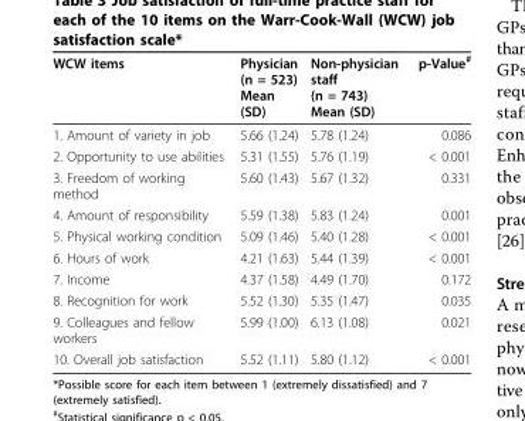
<table><thead><tr><td>WCW items</td><td>Physician (n = 523) Mean (SD)</td><td>Non-physician staff (n = 743) Mean (SD)</td><td>p-Value<sup>#</sup></td></tr></thead><tbody><tr><td>1. Amount of variety in job</td><td>5.66 (1.24)</td><td>5.78 (1.24)</td><td>0.086</td></tr><tr><td>2. Opportunity to use abilities</td><td>5.31 (1.55)</td><td>5.76 (1.19)</td><td>&lt; 0.001</td></tr><tr><td>3. Freedom of working method</td><td>5.60 (1.43)</td><td>5.67 (1.32)</td><td>0.331</td></tr><tr><td>4. Amount of responsibility</td><td>5.59 (1.38)</td><td>5.83 (1.24)</td><td>0.001</td></tr><tr><td>5. Physical working condition</td><td>5.09 (1.46)</td><td>5.40 (1.28)</td><td>&lt; 0.001</td></tr><tr><td>6. Hours of work</td><td>4.21 (1.63)</td><td>5.44 (1.39)</td><td>&lt; 0.001</td></tr><tr><td>7. Income</td><td>4.37 (1.58)</td><td>4.49 (1.70)</td><td>0.172</td></tr><tr><td>8. Recognition for work</td><td>5.52 (1.30)</td><td>5.35 (1.47)</td><td>0.035</td></tr><tr><td>9. Colleagues and fellow workers</td><td>5.99 (1.00)</td><td>6.13 (1.08)</td><td>0.021</td></tr><tr><td>10. Overall job satisfaction</td><td>5.52 (1.11)</td><td>5.80 (1.12)</td><td>&lt; 0.001</td></tr></tbody></table>